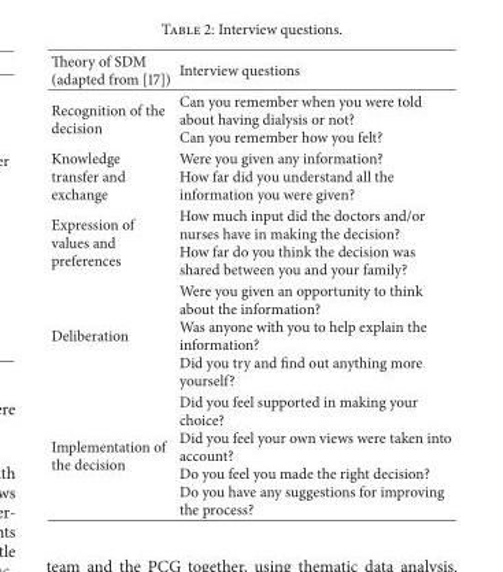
<table><thead><tr><td>Theory of SDM (adapted from [17])</td><td>Interview questions</td></tr></thead><tbody><tr><td>Recognition of the decision</td><td>Can you remember when you were told about having dialysis or not? Can you remember how you felt?</td></tr><tr><td>Knowledge transfer and exchange</td><td>Were you given any information? How far did you understand all the information you were given?</td></tr><tr><td>Expression of values and preferences</td><td>How much input did the doctors and/or nurses have in making the decision? How far do you think the decision was shared between you and your family?</td></tr><tr><td>Deliberation</td><td>Were you given an opportunity to think about the information? Was anyone with you to help explain the information? Did you try and find out anything more yourself?</td></tr><tr><td>Implementation of the decision</td><td>Did you feel supported in making your choice? Did you feel your own views were taken into account? Do you feel you made the right decision? Do you have any suggestions for improving the process?</td></tr></tbody></table>